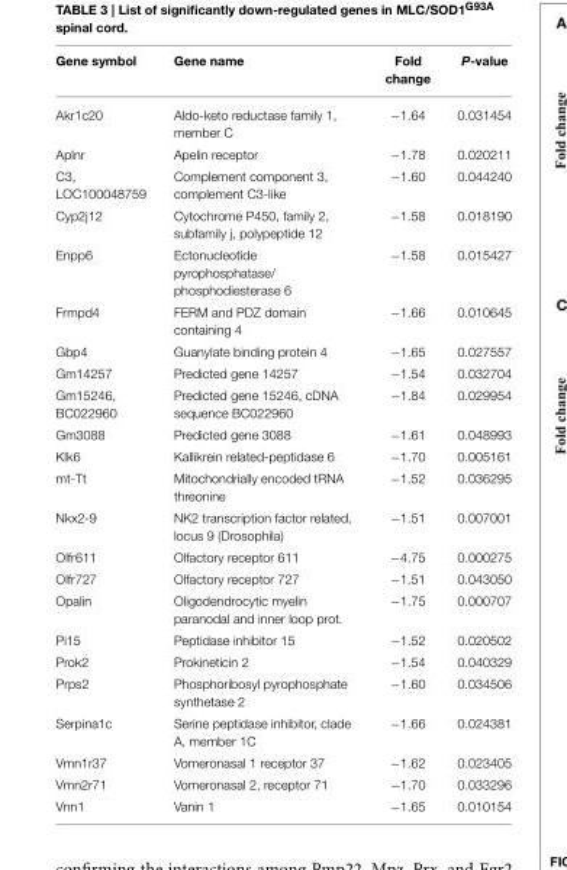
<table><thead><tr><td>Gene symbol</td><td>Gene name</td><td>Fold change</td><td>P-value</td></tr></thead><tbody><tr><td>Akr1c20</td><td>Aldo-keto reductase family 1, member C</td><td>−1.64</td><td>0.031454</td></tr><tr><td>Aplnr</td><td>Apelin receptor</td><td>−1.78</td><td>0.020211</td></tr><tr><td>C3, LOC100048759</td><td>Complement component 3, complement C3-like</td><td>−1.60</td><td>0.044240</td></tr><tr><td>Cyp2j12</td><td>Cytochrome P450, family 2, subfamily j, polypeptide 12</td><td>−1.58</td><td>0.018190</td></tr><tr><td>Enpp6</td><td>Ectonucleotide pyrophosphatase/ phosphodiesterase 6</td><td>−1.58</td><td>0.015427</td></tr><tr><td>Frmpd4</td><td>FERM and PDZ domain containing 4</td><td>−1.66</td><td>0.010645</td></tr><tr><td>Gbp4</td><td>Guanylate binding protein 4</td><td>−1.65</td><td>0.027557</td></tr><tr><td>Gm14257</td><td>Predicted gene 14257</td><td>−1.54</td><td>0.032704</td></tr><tr><td>Gm15246, BC022960</td><td>Predicted gene 15246, cDNA sequence BC022960</td><td>−1.84</td><td>0.029954</td></tr><tr><td>Gm3088</td><td>Predicted gene 3088</td><td>−1.61</td><td>0.048993</td></tr><tr><td>Klk6</td><td>Kallikrein related-peptidase 6</td><td>−1.70</td><td>0.005161</td></tr><tr><td>mt-Tt</td><td>Mitochondrially encoded tRNA threonine</td><td>−1.52</td><td>0.036295</td></tr><tr><td>Nkx2-9</td><td>NK2 transcription factor related, locus 9 (Drosophila)</td><td>−1.51</td><td>0.007001</td></tr><tr><td>Olfr611</td><td>Olfactory receptor 611</td><td>−4.75</td><td>0.000275</td></tr><tr><td>Olfr727</td><td>Olfactory receptor 727</td><td>−1.51</td><td>0.043050</td></tr><tr><td>Opalin</td><td>Oligodendrocytic myelin paranodal and inner loop prot.</td><td>−1.75</td><td>0.000707</td></tr><tr><td>Pi15</td><td>Peptidase inhibitor 15</td><td>−1.52</td><td>0.020502</td></tr><tr><td>Prok2</td><td>Prokineticin 2</td><td>−1.54</td><td>0.040329</td></tr><tr><td>Prps2</td><td>Phosphoribosyl pyrophosphate synthetase 2</td><td>−1.60</td><td>0.034506</td></tr><tr><td>Serpina1c</td><td>Serine peptidase inhibitor, clade A, member 1C</td><td>−1.66</td><td>0.024381</td></tr><tr><td>Vmn1r37</td><td>Vomeronasal 1 receptor 37</td><td>−1.62</td><td>0.023405</td></tr><tr><td>Vmn2r71</td><td>Vomeronasal 2, receptor 71</td><td>−1.70</td><td>0.033296</td></tr><tr><td>Vnn1</td><td>Vanin 1</td><td>−1.65</td><td>0.010154</td></tr></tbody></table>